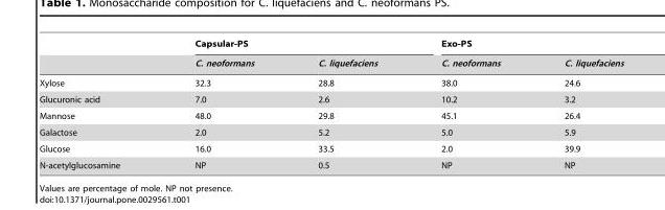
<table><thead><tr><td rowspan="2"></td><td colspan="2">Capsular-PS</td><td colspan="2">Exo-PS</td></tr><tr><td>C. neoformans</td><td>C. liquefaciens</td><td>C. neoformans</td><td>C. liquefaciens</td></tr></thead><tbody><tr><td>Xylose</td><td>32.3</td><td>28.8</td><td>38.0</td><td>24.6</td></tr><tr><td>Glucuronic acid</td><td>7.0</td><td>2.6</td><td>10.2</td><td>3.2</td></tr><tr><td>Mannose</td><td>48.0</td><td>29.8</td><td>45.1</td><td>26.4</td></tr><tr><td>Galactose</td><td>2.0</td><td>5.2</td><td>5.0</td><td>5.9</td></tr><tr><td>Glucose</td><td>16.0</td><td>33.5</td><td>2.0</td><td>39.9</td></tr><tr><td>N-acetylglucosamine</td><td>NP</td><td>0.5</td><td>NP</td><td>NP</td></tr></tbody></table>